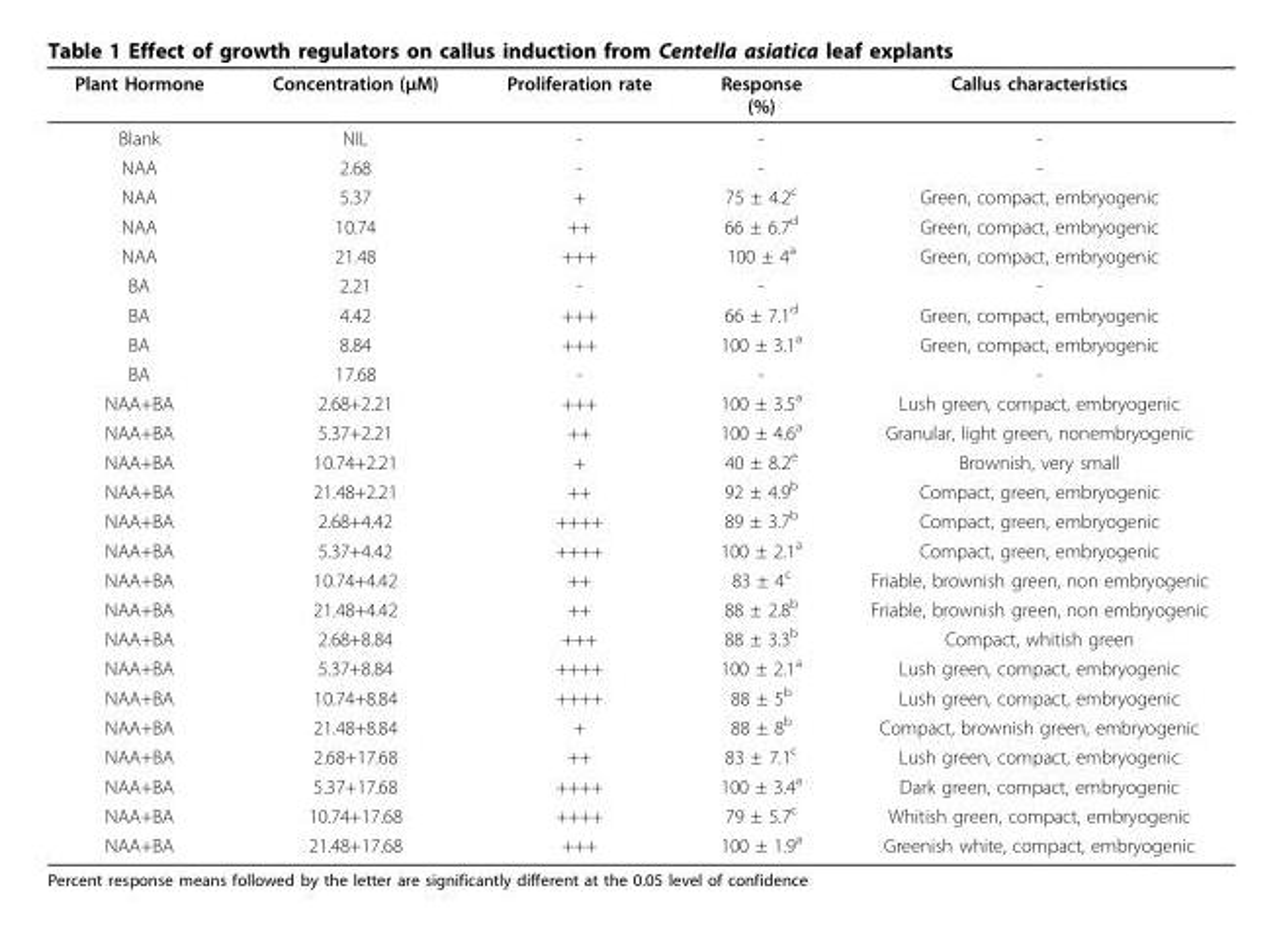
<table><thead><tr><td>Plant Hormone</td><td>Concentration (μM)</td><td>Proliferation rate</td><td>Response (%)</td><td>Callus characteristics</td></tr></thead><tbody><tr><td>Blank</td><td>NIL</td><td>-</td><td>-</td><td>-</td></tr><tr><td>NAA</td><td>2.68</td><td>-</td><td>-</td><td>-</td></tr><tr><td>NAA</td><td>5.37</td><td>+</td><td>75 ± 4.2<sup>c</sup></td><td>Green, compact, embryogenic</td></tr><tr><td>NAA</td><td>10.74</td><td>++</td><td>66 ± 6.7<sup>d</sup></td><td>Green, compact, embryogenic</td></tr><tr><td>NAA</td><td>21.48</td><td>+++</td><td>100 ± 4<sup>a</sup></td><td>Green, compact, embryogenic</td></tr><tr><td>BA</td><td>2.21</td><td>-</td><td>-</td><td>-</td></tr><tr><td>BA</td><td>4.42</td><td>+++</td><td>66 ± 7.1<sup>d</sup></td><td>Green, compact, embryogenic</td></tr><tr><td>BA</td><td>8.84</td><td>+++</td><td>100 ± 3.1<sup>a</sup></td><td>Green, compact, embryogenic</td></tr><tr><td>BA</td><td>17.68</td><td>-</td><td>-</td><td>-</td></tr><tr><td>NAA+BA</td><td>2.68+2.21</td><td>+++</td><td>100 ± 3.5<sup>a</sup></td><td>Lush green, compact, embryogenic</td></tr><tr><td>NAA+BA</td><td>5.37+2.21</td><td>++</td><td>100 ± 4.6<sup>a</sup></td><td>Granular, light green, nonembryogenic</td></tr><tr><td>NAA+BA</td><td>10.74+2.21</td><td>+</td><td>40 ± 8.2<sup>e</sup></td><td>Brownish, very small</td></tr><tr><td>NAA+BA</td><td>21.48+2.21</td><td>++</td><td>92 ± 4.9<sup>b</sup></td><td>Compact, green, embryogenic</td></tr><tr><td>NAA+BA</td><td>2.68+4.42</td><td>++++</td><td>89 ± 3.7<sup>b</sup></td><td>Compact, green, embryogenic</td></tr><tr><td>NAA+BA</td><td>5.37+4.42</td><td>++++</td><td>100 ± 2.1<sup>a</sup></td><td>Compact, green, embryogenic</td></tr><tr><td>NAA+BA</td><td>10.74+4.42</td><td>++</td><td>83 ± 4<sup>c</sup></td><td>Friable, brownish green, non embryogenic</td></tr><tr><td>NAA+BA</td><td>21.48+4.42</td><td>++</td><td>88 ± 2.8<sup>b</sup></td><td>Friable, brownish green, non embryogenic</td></tr><tr><td>NAA+BA</td><td>2.68+8.84</td><td>+++</td><td>88 ± 3.3<sup>b</sup></td><td>Compact, whitish green</td></tr><tr><td>NAA+BA</td><td>5.37+8.84</td><td>++++</td><td>100 ± 2.1<sup>a</sup></td><td>Lush green, compact, embryogenic</td></tr><tr><td>NAA+BA</td><td>10.74+8.84</td><td>++++</td><td>88 ± 5<sup>b</sup></td><td>Lush green, compact, embryogenic</td></tr><tr><td>NAA+BA</td><td>21.48+8.84</td><td>+</td><td>88 ± 8<sup>b</sup></td><td>Compact, brownish green, embryogenic</td></tr><tr><td>NAA+BA</td><td>2.68+17.68</td><td>++</td><td>83 ± 7.1<sup>c</sup></td><td>Lush green, compact, embryogenic</td></tr><tr><td>NAA+BA</td><td>5.37+17.68</td><td>++++</td><td>100 ± 3.4<sup>a</sup></td><td>Dark green, compact, embryogenic</td></tr><tr><td>NAA+BA</td><td>10.74+17.68</td><td>++++</td><td>79 ± 5.7<sup>c</sup></td><td>Whitish green, compact, embryogenic</td></tr><tr><td>NAA+BA</td><td>21.48+17.68</td><td>+++</td><td>100 ± 1.9<sup>a</sup></td><td>Greenish white, compact, embryogenic</td></tr></tbody></table>